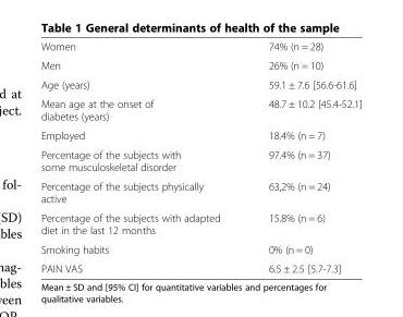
<table><tbody><tr><td>Women</td><td>74% (n = 28)</td></tr><tr><td>Men</td><td>26% (n = 10)</td></tr><tr><td>Age (years)</td><td>59.1 ± 7.6 [56.6-61.6]</td></tr><tr><td>Mean age at the onset of diabetes (years)</td><td>48.7 ± 10.2 [45.4-52.1]</td></tr><tr><td>Employed</td><td>18.4% (n = 7)</td></tr><tr><td>Percentage of the subjects with some musculoskeletal disorder</td><td>97.4% (n = 37)</td></tr><tr><td>Percentage of the subjects physically active</td><td>63,2% (n = 24)</td></tr><tr><td>Percentage of the subjects with adapted diet in the last 12 months</td><td>15.8% (n = 6)</td></tr><tr><td>Smoking habits</td><td>0% (n = 0)</td></tr><tr><td>PAIN VAS</td><td>6.5 ± 2.5 [5.7-7.3]</td></tr></tbody></table>